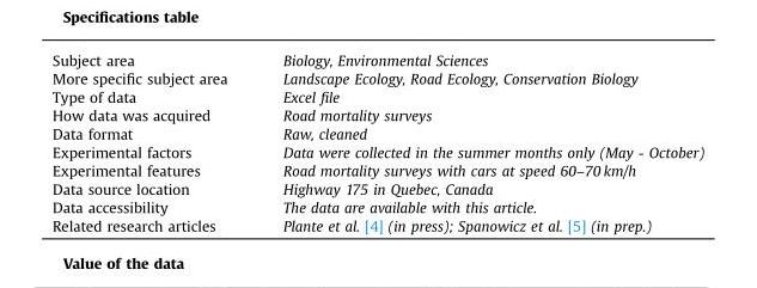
<table><tbody><tr><td>Subject area</td><td>Biology, Environmental Sciences</td></tr><tr><td>More specific subject area</td><td>Landscape Ecology, Road Ecology, Conservation Biology</td></tr><tr><td>Type of data</td><td>Excel file</td></tr><tr><td>How data was acquired</td><td>Road mortality surveys</td></tr><tr><td>Data format</td><td>Raw, cleaned</td></tr><tr><td>Experimental factors</td><td>Data were collected in the summer months only (May - October)</td></tr><tr><td>Experimental features</td><td>Road mortality surveys with cars at speed 60–70 km/h</td></tr><tr><td>Data source location</td><td>Highway 175 in Quebec, Canada</td></tr><tr><td>Data accessibility</td><td>The data are available with this article.</td></tr><tr><td>Related research articles</td><td>Plante et al. [4] (in press); Spanowicz et al. [5] (in prep.)</td></tr></tbody></table>